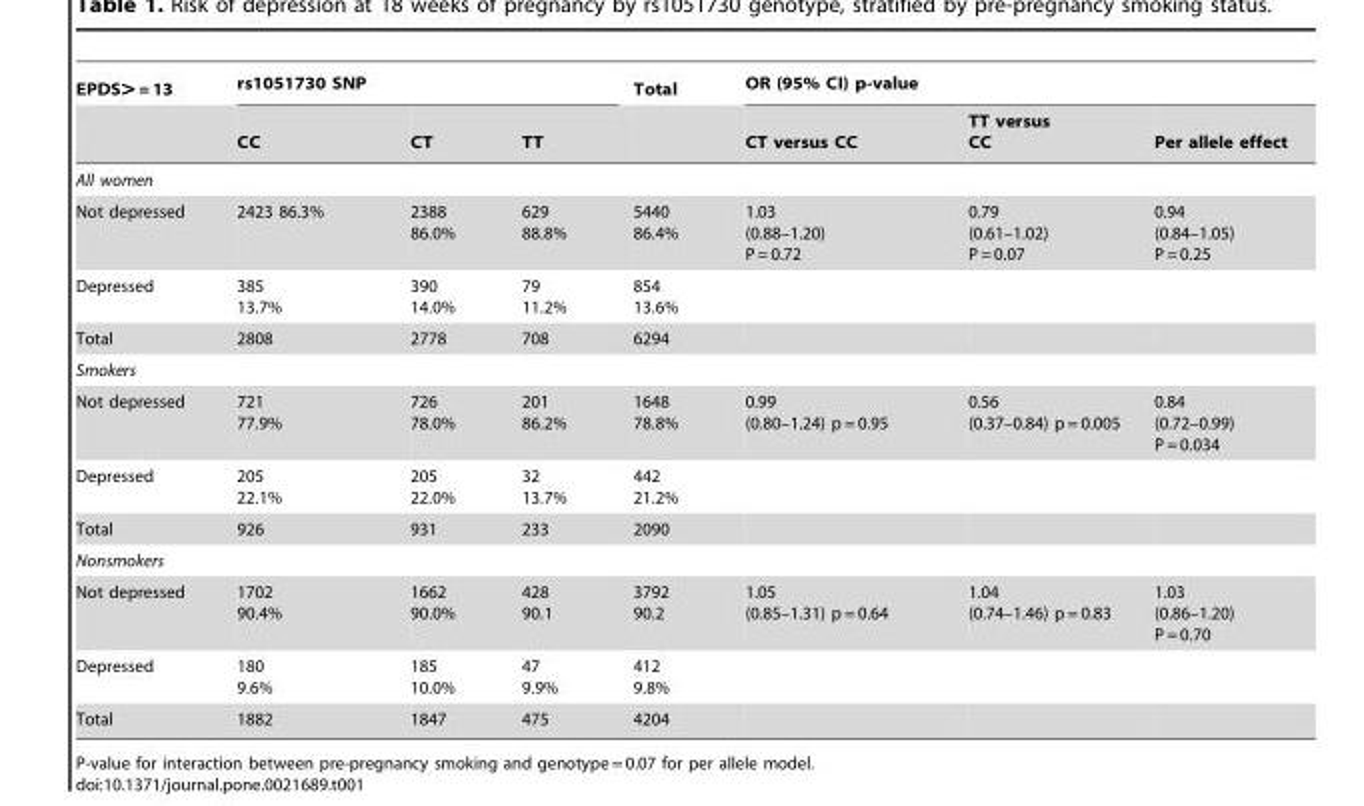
<table><thead><tr><td rowspan="2">EPDS&gt; = 13</td><td colspan="3">rs1051730 SNP</td><td rowspan="2">Total</td><td colspan="3">OR (95% CI) p-value</td></tr><tr><td>CC</td><td>CT</td><td>TT</td><td>CT versus CC</td><td>TT versus CC</td><td>Per allele effect</td></tr></thead><tbody><tr><td colspan="8">All women</td></tr><tr><td>Not depressed</td><td>2423 86.3%</td><td>2388 86.0%</td><td>629 88.8%</td><td>5440 86.4%</td><td>1.03 (0.88–1.20) P = 0.72</td><td>0.79 (0.61–1.02) P = 0.07</td><td>0.94 (0.84–1.05) P = 0.25</td></tr><tr><td>Depressed</td><td>385 13.7%</td><td>390 14.0%</td><td>79 11.2%</td><td>854 13.6%</td><td></td><td></td><td></td></tr><tr><td>Total</td><td>2808</td><td>2778</td><td>708</td><td>6294</td><td></td><td></td><td></td></tr><tr><td colspan="8">Smokers</td></tr><tr><td>Not depressed</td><td>721 77.9%</td><td>726 78.0%</td><td>201 86.2%</td><td>1648 78.8%</td><td>0.99 (0.80–1.24) p = 0.95</td><td>0.56 (0.37–0.84) p = 0.005</td><td>0.84 (0.72–0.99) P = 0.034</td></tr><tr><td>Depressed</td><td>205 22.1%</td><td>205 22.0%</td><td>32 13.7%</td><td>442 21.2%</td><td></td><td></td><td></td></tr><tr><td>Total</td><td>926</td><td>931</td><td>233</td><td>2090</td><td></td><td></td><td></td></tr><tr><td colspan="8">Nonsmokers</td></tr><tr><td>Not depressed</td><td>1702 90.4%</td><td>1662 90.0%</td><td>428 90.1</td><td>3792 90.2</td><td>1.05 (0.85–1.31) p = 0.64</td><td>1.04 (0.74–1.46) p = 0.83</td><td>1.03 (0.86–1.20) P = 0.70</td></tr><tr><td>Depressed</td><td>180 9.6%</td><td>185 10.0%</td><td>47 9.9%</td><td>412 9.8%</td><td></td><td></td><td></td></tr><tr><td>Total</td><td>1882</td><td>1847</td><td>475</td><td>4204</td><td></td><td></td><td></td></tr></tbody></table>